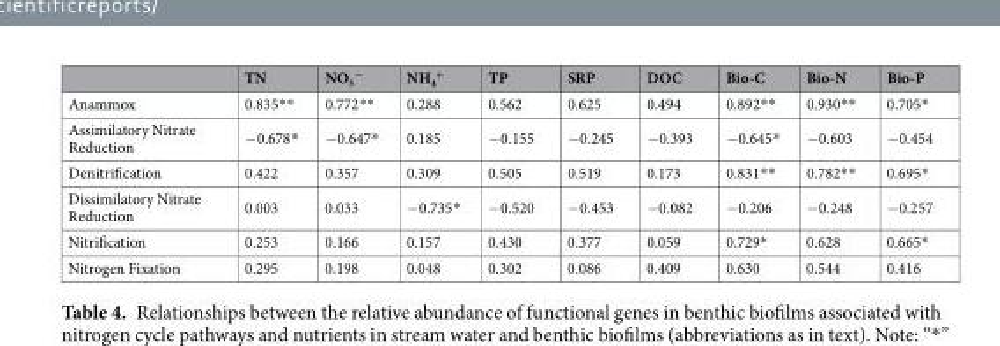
<table><thead><tr><td></td><td>TN</td><td>NO<sub>3</sub> <sup>−</sup></td><td>NH<sub>4</sub> <sup>+</sup></td><td>TP</td><td>SRP</td><td>DOC</td><td>Bio-C</td><td>Bio-N</td><td>Bio-P</td></tr></thead><tbody><tr><td>Anammox</td><td>0.835**</td><td>0.772**</td><td>0.288</td><td>0.562</td><td>0.625</td><td>0.494</td><td>0.892**</td><td>0.930**</td><td>0.705*</td></tr><tr><td>Assimilatory Nitrate Reduction</td><td>−0.678*</td><td>−0.647*</td><td>0.185</td><td>−0.155</td><td>−0.245</td><td>−0.393</td><td>−0.645*</td><td>−0.603</td><td>−0.454</td></tr><tr><td>Denitrification</td><td>0.422</td><td>0.357</td><td>0.309</td><td>0.505</td><td>0.519</td><td>0.173</td><td>0.831**</td><td>0.782**</td><td>0.695*</td></tr><tr><td>Dissimilatory Nitrate Reduction</td><td>0.003</td><td>0.033</td><td>−0.735*</td><td>−0.520</td><td>−0.453</td><td>−0.082</td><td>−0.206</td><td>−0.248</td><td>−0.257</td></tr><tr><td>Nitrification</td><td>0.253</td><td>0.166</td><td>0.157</td><td>0.430</td><td>0.377</td><td>0.059</td><td>0.729*</td><td>0.628</td><td>0.665*</td></tr><tr><td>Nitrogen Fixation</td><td>0.295</td><td>0.198</td><td>0.048</td><td>0.302</td><td>0.086</td><td>0.409</td><td>0.630</td><td>0.544</td><td>0.416</td></tr></tbody></table>